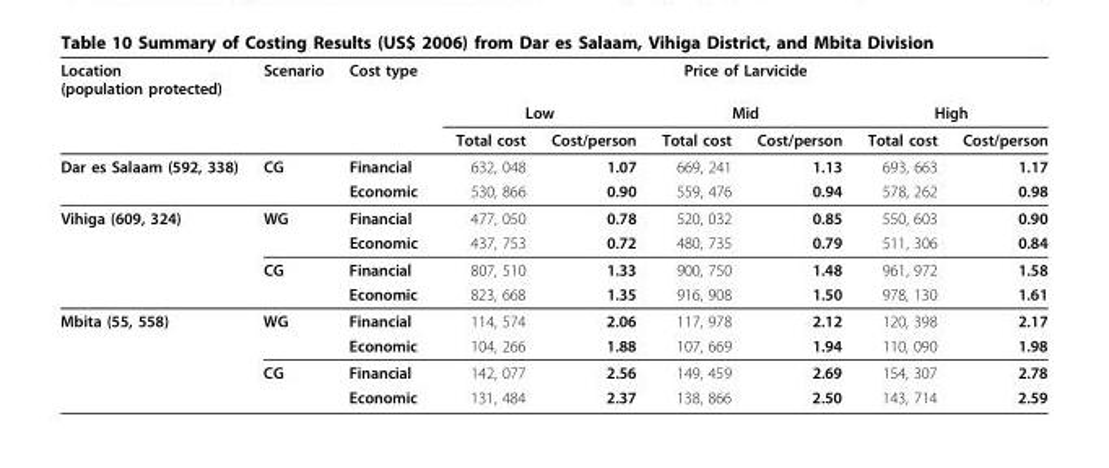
<table><thead><tr><td rowspan="3">Location (population protected)</td><td rowspan="3">Scenario</td><td rowspan="3">Cost type</td><td colspan="6">Price of Larvicide</td></tr><tr><td colspan="2">Low</td><td colspan="2">Mid</td><td colspan="2">High</td></tr><tr><td>Total cost</td><td>Cost/person</td><td>Total cost</td><td>Cost/person</td><td>Total cost</td><td>Cost/person</td></tr></thead><tbody><tr><td rowspan="2">Dar es Salaam (592, 338)</td><td>CG</td><td>Financial</td><td>632, 048</td><td>1.07</td><td>669, 241</td><td>1.13</td><td>693, 663</td><td>1.17</td></tr><tr><td></td><td>Economic</td><td>530, 866</td><td>0.90</td><td>559, 476</td><td>0.94</td><td>578, 262</td><td>0.98</td></tr><tr><td rowspan="4">Vihiga (609, 324)</td><td>WG</td><td>Financial</td><td>477, 050</td><td>0.78</td><td>520, 032</td><td>0.85</td><td>550, 603</td><td>0.90</td></tr><tr><td></td><td>Economic</td><td>437, 753</td><td>0.72</td><td>480, 735</td><td>0.79</td><td>511, 306</td><td>0.84</td></tr><tr><td>CG</td><td>Financial</td><td>807, 510</td><td>1.33</td><td>900, 750</td><td>1.48</td><td>961, 972</td><td>1.58</td></tr><tr><td></td><td>Economic</td><td>823, 668</td><td>1.35</td><td>916, 908</td><td>1.50</td><td>978, 130</td><td>1.61</td></tr><tr><td rowspan="4">Mbita (55, 558)</td><td>WG</td><td>Financial</td><td>114, 574</td><td>2.06</td><td>117, 978</td><td>2.12</td><td>120, 398</td><td>2.17</td></tr><tr><td></td><td>Economic</td><td>104, 266</td><td>1.88</td><td>107, 669</td><td>1.94</td><td>110, 090</td><td>1.98</td></tr><tr><td>CG</td><td>Financial</td><td>142, 077</td><td>2.56</td><td>149, 459</td><td>2.69</td><td>154, 307</td><td>2.78</td></tr><tr><td></td><td>Economic</td><td>131, 484</td><td>2.37</td><td>138, 866</td><td>2.50</td><td>143, 714</td><td>2.59</td></tr></tbody></table>